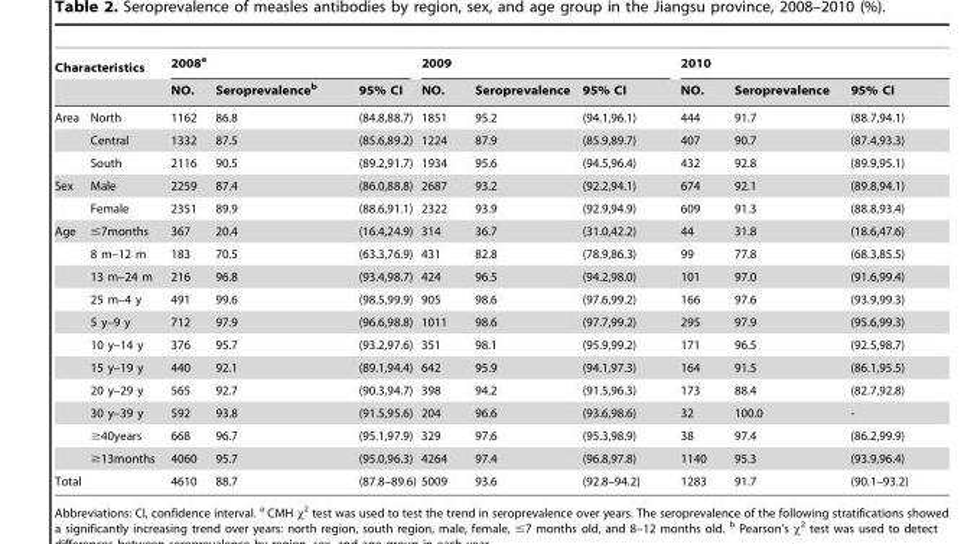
<table><thead><tr><td colspan="2">Characteristics</td><td colspan="3">2008<sup>a</sup></td><td colspan="3">2009</td><td colspan="3">2010</td></tr><tr><td></td><td></td><td>NO.</td><td>Seroprevalence<sup>b</sup></td><td>95% CI</td><td>NO.</td><td>Seroprevalence</td><td>95% CI</td><td>NO.</td><td>Seroprevalence</td><td>95% CI</td></tr></thead><tbody><tr><td rowspan="3">Area</td><td>North</td><td>1162</td><td>86.8</td><td>(84.8,88.7)</td><td>1851</td><td>95.2</td><td>(94.1,96.1)</td><td>444</td><td>91.7</td><td>(88.7,94.1)</td></tr><tr><td>Central</td><td>1332</td><td>87.5</td><td>(85.6,89.2)</td><td>1224</td><td>87.9</td><td>(85.9,89.7)</td><td>407</td><td>90.7</td><td>(87.4,93.3)</td></tr><tr><td>South</td><td>2116</td><td>90.5</td><td>(89.2,91.7)</td><td>1934</td><td>95.6</td><td>(94.5,96.4)</td><td>432</td><td>92.8</td><td>(89.9,95.1)</td></tr><tr><td rowspan="2">Sex</td><td>Male</td><td>2259</td><td>87.4</td><td>(86.0,88.8)</td><td>2687</td><td>93.2</td><td>(92.2,94.1)</td><td>674</td><td>92.1</td><td>(89.8,94.1)</td></tr><tr><td>Female</td><td>2351</td><td>89.9</td><td>(88.6,91.1)</td><td>2322</td><td>93.9</td><td>(92.9,94.9)</td><td>609</td><td>91.3</td><td>(88.8,93.4)</td></tr><tr><td rowspan="11">Age</td><td>≤7months</td><td>367</td><td>20.4</td><td>(16.4,24.9)</td><td>314</td><td>36.7</td><td>(31.0,42.2)</td><td>44</td><td>31.8</td><td>(18.6,47.6)</td></tr><tr><td>8 m–12 m</td><td>183</td><td>70.5</td><td>(63.3,76.9)</td><td>431</td><td>82.8</td><td>(78.9,86.3)</td><td>99</td><td>77.8</td><td>(68.3,85.5)</td></tr><tr><td>13 m–24 m</td><td>216</td><td>96.8</td><td>(93.4,98.7)</td><td>424</td><td>96.5</td><td>(94.2,98.0)</td><td>101</td><td>97.0</td><td>(91.6,99.4)</td></tr><tr><td>25 m–4 y</td><td>491</td><td>99.6</td><td>(98.5,99.9)</td><td>905</td><td>98.6</td><td>(97.6,99.2)</td><td>166</td><td>97.6</td><td>(93.9,99.3)</td></tr><tr><td>5 y–9 y</td><td>712</td><td>97.9</td><td>(96.6,98.8)</td><td>1011</td><td>98.6</td><td>(97.7,99.2)</td><td>295</td><td>97.9</td><td>(95.6,99.3)</td></tr><tr><td>10 y–14 y</td><td>376</td><td>95.7</td><td>(93.2,97.6)</td><td>351</td><td>98.1</td><td>(95.9,99.2)</td><td>171</td><td>96.5</td><td>(92.5,98.7)</td></tr><tr><td>15 y–19 y</td><td>440</td><td>92.1</td><td>(89.1,94.4)</td><td>642</td><td>95.9</td><td>(94.1,97.3)</td><td>164</td><td>91.5</td><td>(86.1,95.5)</td></tr><tr><td>20 y–29 y</td><td>565</td><td>92.7</td><td>(90.3,94.7)</td><td>398</td><td>94.2</td><td>(91.5,96.3)</td><td>173</td><td>88.4</td><td>(82.7,92.8)</td></tr><tr><td>30 y–39 y</td><td>592</td><td>93.8</td><td>(91.5,95.6)</td><td>204</td><td>96.6</td><td>(93.6,98.6)</td><td>32</td><td>100.0</td><td>-</td></tr><tr><td>≥40years</td><td>668</td><td>96.7</td><td>(95.1,97.9)</td><td>329</td><td>97.6</td><td>(95.3,98.9)</td><td>38</td><td>97.4</td><td>(86.2,99.9)</td></tr><tr><td>≥13months</td><td>4060</td><td>95.7</td><td>(95.0,96.3)</td><td>4264</td><td>97.4</td><td>(96.8,97.8)</td><td>1140</td><td>95.3</td><td>(93.9,96.4)</td></tr><tr><td colspan="2">Total</td><td>4610</td><td>88.7</td><td>(87.8–89.6)</td><td>5009</td><td>93.6</td><td>(92.8–94.2)</td><td>1283</td><td>91.7</td><td>(90.1–93.2)</td></tr></tbody></table>